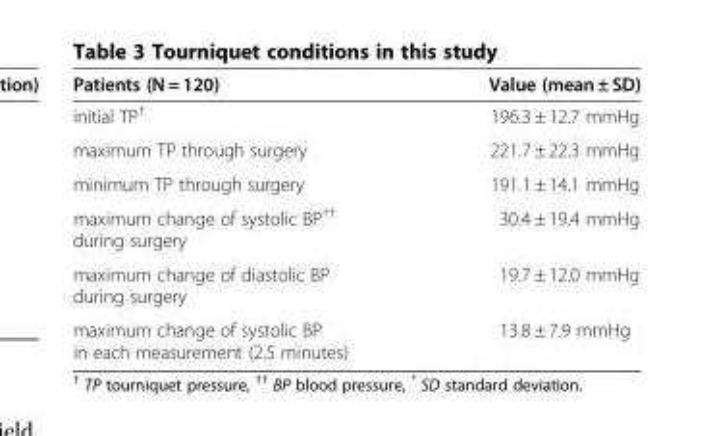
<table><thead><tr><td>Patients (N = 120)</td><td>Value (mean ± SD)</td></tr></thead><tbody><tr><td>initial TP<sup>†</sup></td><td>196.3 ± 12.7 mmHg</td></tr><tr><td>maximum TP through surgery</td><td>221.7 ± 22.3 mmHg</td></tr><tr><td>minimum TP through surgery</td><td>191.1 ± 14.1 mmHg</td></tr><tr><td>maximum change of systolic BP<sup>††</sup> during surgery</td><td>30.4 ± 19.4 mmHg</td></tr><tr><td>maximum change of diastolic BP during surgery</td><td>19.7 ± 12.0 mmHg</td></tr><tr><td>maximum change of systolic BP in each measurement (2.5 minutes)</td><td>13.8 ± 7.9 mmHg</td></tr></tbody></table>